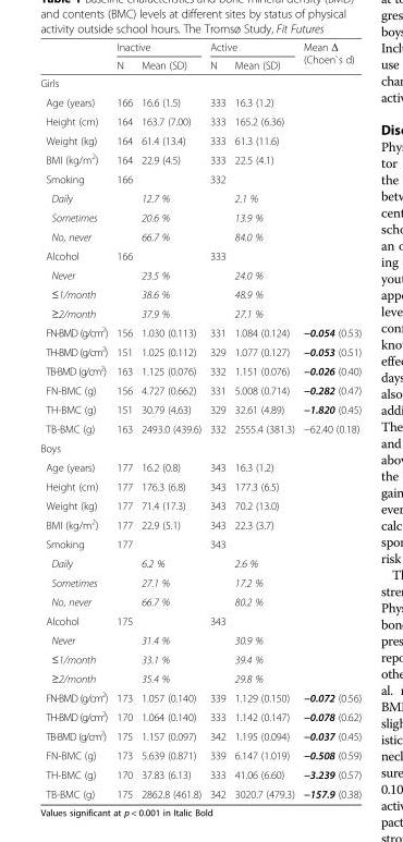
<table><thead><tr><td rowspan="2"></td><td colspan="2">Inactive</td><td colspan="2">Active</td><td rowspan="2">Mean Δ (Choen`s d)</td></tr><tr><td>N</td><td>Mean (SD)</td><td>N</td><td>Mean (SD)</td></tr></thead><tbody><tr><td colspan="6">Girls</td></tr><tr><td>Age (years)</td><td>166</td><td>16.6 (1.5)</td><td>333</td><td>16.3 (1.2)</td><td></td></tr><tr><td>Height (cm)</td><td>164</td><td>163.7 (7.00)</td><td>333</td><td>165.2 (6.36)</td><td></td></tr><tr><td>Weight (kg)</td><td>164</td><td>61.4 (13.4)</td><td>333</td><td>61.3 (11.6)</td><td></td></tr><tr><td>BMI (kg/m<sup>2</sup>)</td><td>164</td><td>22.9 (4.5)</td><td>333</td><td>22.5 (4.1)</td><td></td></tr><tr><td>Smoking</td><td>166</td><td></td><td>332</td><td></td><td></td></tr><tr><td>Daily</td><td></td><td>12.7 %</td><td></td><td>2.1 %</td><td></td></tr><tr><td>Sometimes</td><td></td><td>20.6 %</td><td></td><td>13.9 %</td><td></td></tr><tr><td>No, never</td><td></td><td>66.7 %</td><td></td><td>84.0 %</td><td></td></tr><tr><td>Alcohol</td><td>166</td><td></td><td>333</td><td></td><td></td></tr><tr><td>Never</td><td></td><td>23.5 %</td><td></td><td>24.0 %</td><td></td></tr><tr><td>≤1/month</td><td></td><td>38.6 %</td><td></td><td>48.9 %</td><td></td></tr><tr><td>≥2/month</td><td></td><td>37.9 %</td><td></td><td>27.1 %</td><td></td></tr><tr><td>FN-BMD (g/cm<sup>2</sup>)</td><td>156</td><td>1.030 (0.113)</td><td>331</td><td>1.084 (0.124)</td><td>−0.054 (0.53)</td></tr><tr><td>TH-BMD (g/cm<sup>2</sup>)</td><td>151</td><td>1.025 (0.112)</td><td>329</td><td>1.077 (0.127)</td><td>−0.053 (0.51)</td></tr><tr><td>TB-BMD (g/cm<sup>2</sup>)</td><td>163</td><td>1.125 (0.076)</td><td>332</td><td>1.151 (0.076)</td><td>−0.026 (0.40)</td></tr><tr><td>FN-BMC (g)</td><td>156</td><td>4.727 (0.662)</td><td>331</td><td>5.008 (0.714)</td><td>−0.282 (0.47)</td></tr><tr><td>TH-BMC (g)</td><td>151</td><td>30.79 (4.63)</td><td>329</td><td>32.61 (4.89)</td><td>−1.820 (0.45)</td></tr><tr><td>TB-BMC (g)</td><td>163</td><td>2493.0 (439.6)</td><td>332</td><td>2555.4 (381.3)</td><td>−62.40 (0.18)</td></tr><tr><td colspan="6">Boys</td></tr><tr><td>Age (years)</td><td>177</td><td>16.2 (0.8)</td><td>343</td><td>16.3 (1.2)</td><td></td></tr><tr><td>Height (cm)</td><td>177</td><td>176.3 (6.8)</td><td>343</td><td>177.3 (6.5)</td><td></td></tr><tr><td>Weight (kg)</td><td>177</td><td>71.4 (17.3)</td><td>343</td><td>70.2 (13.0)</td><td></td></tr><tr><td>BMI (kg/m<sup>2</sup>)</td><td>177</td><td>22.9 (5.1)</td><td>343</td><td>22.3 (3.7)</td><td></td></tr><tr><td>Smoking</td><td>177</td><td></td><td>343</td><td></td><td></td></tr><tr><td>Daily</td><td></td><td>6.2 %</td><td></td><td>2.6 %</td><td></td></tr><tr><td>Sometimes</td><td></td><td>27.1 %</td><td></td><td>17.2 %</td><td></td></tr><tr><td>No, never</td><td></td><td>66.7 %</td><td></td><td>80.2 %</td><td></td></tr><tr><td>Alcohol</td><td>175</td><td></td><td>343</td><td></td><td></td></tr><tr><td>Never</td><td></td><td>31.4 %</td><td></td><td>30.9 %</td><td></td></tr><tr><td>≤1/month</td><td></td><td>33.1 %</td><td></td><td>39.4 %</td><td></td></tr><tr><td>≥2/month</td><td></td><td>35.4 %</td><td></td><td>29.8 %</td><td></td></tr><tr><td>FN-BMD (g/cm<sup>2</sup>)</td><td>173</td><td>1.057 (0.140)</td><td>339</td><td>1.129 (0.150)</td><td>−0.072 (0.56)</td></tr><tr><td>TH-BMD (g/cm<sup>2</sup>)</td><td>170</td><td>1.064 (0.140)</td><td>333</td><td>1.142 (0.147)</td><td>−0.078 (0.62)</td></tr><tr><td>TB-BMD (g/cm<sup>2</sup>)</td><td>175</td><td>1.157 (0.097)</td><td>342</td><td>1.195 (0.094)</td><td>−0.037 (0.45)</td></tr><tr><td>FN-BMC (g)</td><td>173</td><td>5.639 (0.871)</td><td>339</td><td>6.147 (1.019)</td><td>−0.508 (0.59)</td></tr><tr><td>TH-BMC (g)</td><td>170</td><td>37.83 (6.13)</td><td>333</td><td>41.06 (6.60)</td><td>−3.239 (0.57)</td></tr><tr><td>TB-BMC (g)</td><td>175</td><td>2862.8 (461.8)</td><td>342</td><td>3020.7 (479.3)</td><td>−157.9 (0.38)</td></tr></tbody></table>